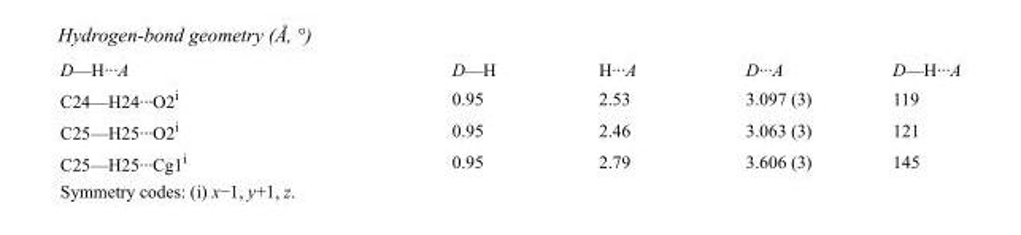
<table><tbody><tr><td>D—H···A</td><td>D—H</td><td>H···A</td><td>D···A</td><td>D—H···A</td></tr><tr><td>C24—H24···O2<sup>i</sup></td><td>0.95</td><td>2.53</td><td>3.097 (3)</td><td>119</td></tr><tr><td>C25—H25···O2<sup>i</sup></td><td>0.95</td><td>2.46</td><td>3.063 (3)</td><td>121</td></tr><tr><td>C25—H25···Cg1<sup>i</sup></td><td>0.95</td><td>2.79</td><td>3.606 (3)</td><td>145</td></tr></tbody></table>